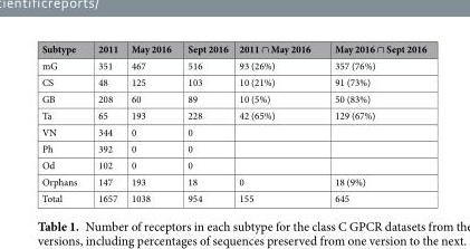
<table><thead><tr><td>Subtype</td><td>2011</td><td>May 2016</td><td>Sept 2016</td><td>2011 ∩ May 2016</td><td>May 2016 ∩ Sept 2016</td></tr></thead><tbody><tr><td>mG</td><td>351</td><td>467</td><td>516</td><td>93 (26%)</td><td>357 (76%)</td></tr><tr><td>CS</td><td>48</td><td>125</td><td>103</td><td>10 (21%)</td><td>91 (73%)</td></tr><tr><td>GB</td><td>208</td><td>60</td><td>89</td><td>10 (5%)</td><td>50 (83%)</td></tr><tr><td>Ta</td><td>65</td><td>193</td><td>228</td><td>42 (65%)</td><td>129 (67%)</td></tr><tr><td>VN</td><td>344</td><td>0</td><td>0</td><td></td><td></td></tr><tr><td>Ph</td><td>392</td><td>0</td><td>0</td><td></td><td></td></tr><tr><td>Od</td><td>102</td><td>0</td><td>0</td><td></td><td></td></tr><tr><td>Orphans</td><td>147</td><td>193</td><td>18</td><td>0</td><td>18 (9%)</td></tr><tr><td>Total</td><td>1657</td><td>1038</td><td>954</td><td>155</td><td>645</td></tr></tbody></table>